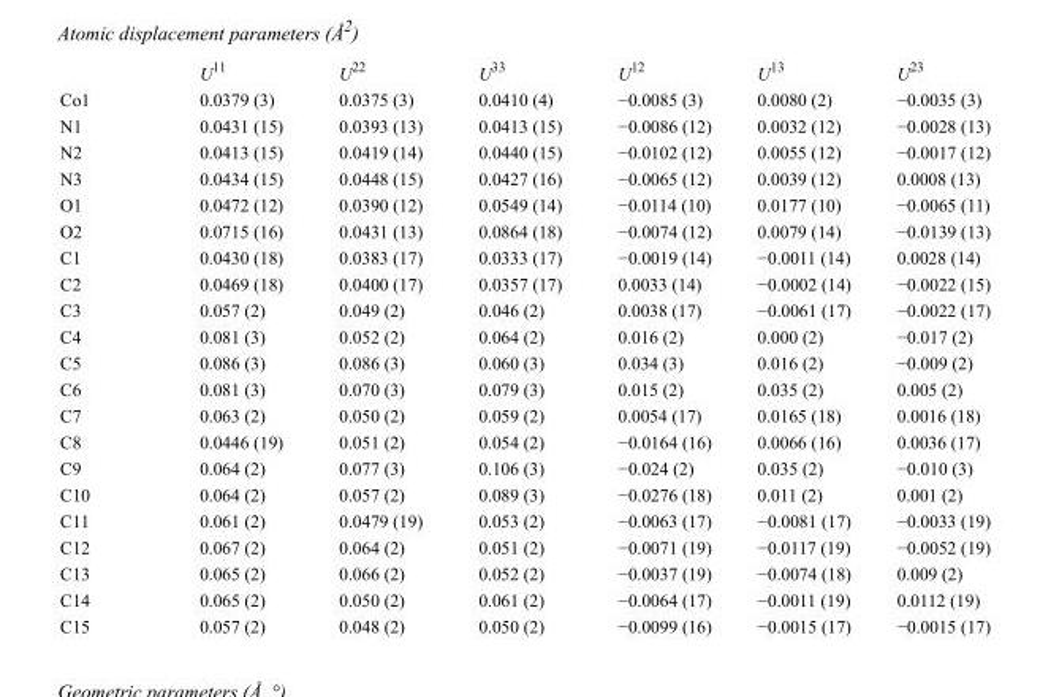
<table><thead><tr><td></td><td>U<sup>11</sup></td><td>U<sup>22</sup></td><td>U<sup>33</sup></td><td>U<sup>12</sup></td><td>U<sup>13</sup></td><td>U<sup>23</sup></td></tr></thead><tbody><tr><td>Co1</td><td>0.0379 (3)</td><td>0.0375 (3)</td><td>0.0410 (4)</td><td>−0.0085 (3)</td><td>0.0080 (2)</td><td>−0.0035 (3)</td></tr><tr><td>N1</td><td>0.0431 (15)</td><td>0.0393 (13)</td><td>0.0413 (15)</td><td>−0.0086 (12)</td><td>0.0032 (12)</td><td>−0.0028 (13)</td></tr><tr><td>N2</td><td>0.0413 (15)</td><td>0.0419 (14)</td><td>0.0440 (15)</td><td>−0.0102 (12)</td><td>0.0055 (12)</td><td>−0.0017 (12)</td></tr><tr><td>N3</td><td>0.0434 (15)</td><td>0.0448 (15)</td><td>0.0427 (16)</td><td>−0.0065 (12)</td><td>0.0039 (12)</td><td>0.0008 (13)</td></tr><tr><td>O1</td><td>0.0472 (12)</td><td>0.0390 (12)</td><td>0.0549 (14)</td><td>−0.0114 (10)</td><td>0.0177 (10)</td><td>−0.0065 (11)</td></tr><tr><td>O2</td><td>0.0715 (16)</td><td>0.0431 (13)</td><td>0.0864 (18)</td><td>−0.0074 (12)</td><td>0.0079 (14)</td><td>−0.0139 (13)</td></tr><tr><td>C1</td><td>0.0430 (18)</td><td>0.0383 (17)</td><td>0.0333 (17)</td><td>−0.0019 (14)</td><td>−0.0011 (14)</td><td>0.0028 (14)</td></tr><tr><td>C2</td><td>0.0469 (18)</td><td>0.0400 (17)</td><td>0.0357 (17)</td><td>0.0033 (14)</td><td>−0.0002 (14)</td><td>−0.0022 (15)</td></tr><tr><td>C3</td><td>0.057 (2)</td><td>0.049 (2)</td><td>0.046 (2)</td><td>0.0038 (17)</td><td>−0.0061 (17)</td><td>−0.0022 (17)</td></tr><tr><td>C4</td><td>0.081 (3)</td><td>0.052 (2)</td><td>0.064 (2)</td><td>0.016 (2)</td><td>0.000 (2)</td><td>−0.017 (2)</td></tr><tr><td>C5</td><td>0.086 (3)</td><td>0.086 (3)</td><td>0.060 (3)</td><td>0.034 (3)</td><td>0.016 (2)</td><td>−0.009 (2)</td></tr><tr><td>C6</td><td>0.081 (3)</td><td>0.070 (3)</td><td>0.079 (3)</td><td>0.015 (2)</td><td>0.035 (2)</td><td>0.005 (2)</td></tr><tr><td>C7</td><td>0.063 (2)</td><td>0.050 (2)</td><td>0.059 (2)</td><td>0.0054 (17)</td><td>0.0165 (18)</td><td>0.0016 (18)</td></tr><tr><td>C8</td><td>0.0446 (19)</td><td>0.051 (2)</td><td>0.054 (2)</td><td>−0.0164 (16)</td><td>0.0066 (16)</td><td>0.0036 (17)</td></tr><tr><td>C9</td><td>0.064 (2)</td><td>0.077 (3)</td><td>0.106 (3)</td><td>−0.024 (2)</td><td>0.035 (2)</td><td>−0.010 (3)</td></tr><tr><td>C10</td><td>0.064 (2)</td><td>0.057 (2)</td><td>0.089 (3)</td><td>−0.0276 (18)</td><td>0.011 (2)</td><td>0.001 (2)</td></tr><tr><td>C11</td><td>0.061 (2)</td><td>0.0479 (19)</td><td>0.053 (2)</td><td>−0.0063 (17)</td><td>−0.0081 (17)</td><td>−0.0033 (19)</td></tr><tr><td>C12</td><td>0.067 (2)</td><td>0.064 (2)</td><td>0.051 (2)</td><td>−0.0071 (19)</td><td>−0.0117 (19)</td><td>−0.0052 (19)</td></tr><tr><td>C13</td><td>0.065 (2)</td><td>0.066 (2)</td><td>0.052 (2)</td><td>−0.0037 (19)</td><td>−0.0074 (18)</td><td>0.009 (2)</td></tr><tr><td>C14</td><td>0.065 (2)</td><td>0.050 (2)</td><td>0.061 (2)</td><td>−0.0064 (17)</td><td>−0.0011 (19)</td><td>0.0112 (19)</td></tr><tr><td>C15</td><td>0.057 (2)</td><td>0.048 (2)</td><td>0.050 (2)</td><td>−0.0099 (16)</td><td>−0.0015 (17)</td><td>−0.0015 (17)</td></tr></tbody></table>